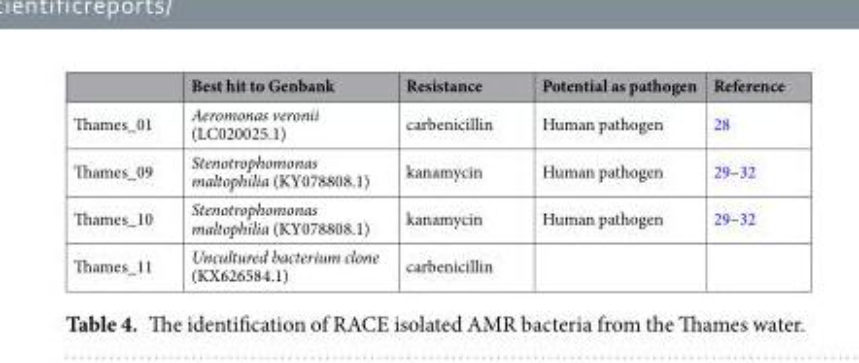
<table><thead><tr><td></td><td>Best hit to Genbank</td><td>Resistance</td><td>Potential as pathogen</td><td>Reference</td></tr></thead><tbody><tr><td>Thames_01</td><td>Aeromonas veronii (LC020025.1)</td><td>carbenicillin</td><td>Human pathogen</td><td>28</td></tr><tr><td>Thames_09</td><td>Stenotrophomonas maltophilia (KY078808.1)</td><td>kanamycin</td><td>Human pathogen</td><td>29–32</td></tr><tr><td>Thames_10</td><td>Stenotrophomonas maltophilia (KY078808.1)</td><td>kanamycin</td><td>Human pathogen</td><td>29–32</td></tr><tr><td>Thames_11</td><td>Uncultured bacterium clone (KX626584.1)</td><td>carbenicillin</td><td></td><td></td></tr></tbody></table>